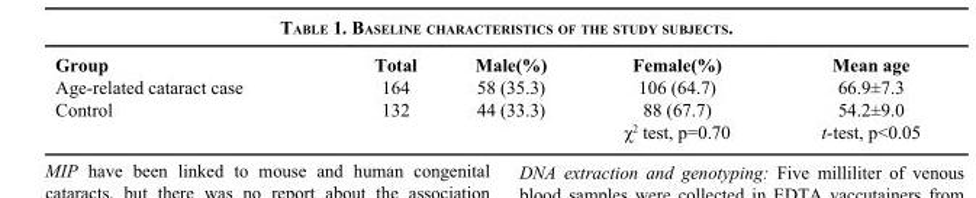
<table><thead><tr><td>Group</td><td>Total</td><td>Male(%)</td><td>Female(%)</td><td>Mean age</td></tr></thead><tbody><tr><td>Age-related cataract case</td><td>164</td><td>58 (35.3)</td><td>106 (64.7)</td><td>66.9±7.3</td></tr><tr><td rowspan="2">Control</td><td>132</td><td>44 (33.3)</td><td>88 (67.7)</td><td>54.2±9.0</td></tr><tr><td></td><td></td><td>χ<sup>2</sup> test, p=0.70</td><td>t-test, p&lt;0.05</td></tr></tbody></table>